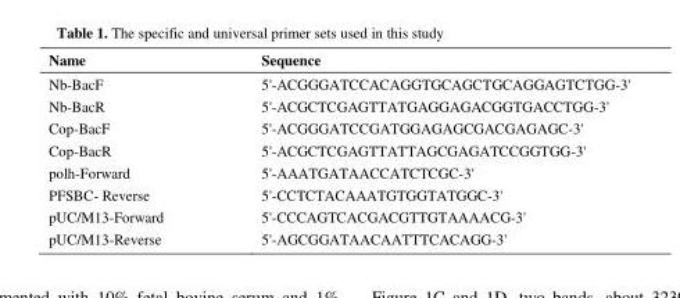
<table><thead><tr><td>Name</td><td>Sequence</td></tr></thead><tbody><tr><td>Nb-BacF</td><td>5&#x27;-ACGGGATCCACAGGTGCAGCTGCAGGAGTCTGG-3&#x27;</td></tr><tr><td>Nb-BacR</td><td>5&#x27;-ACGCTCGAGTTATGAGGAGACGGTGACCTGG-3&#x27;</td></tr><tr><td>Cop-BacF</td><td>5&#x27;-ACGGGATCCGATGGAGAGCGACGAGAGC-3&#x27;</td></tr><tr><td>Cop-BacR</td><td>5&#x27;-ACGCTCGAGTTATTAGCGAGATCCGGTGG-3&#x27;</td></tr><tr><td>polh-Forward</td><td>5&#x27;-AAATGATAACCATCTCGC-3&#x27;</td></tr><tr><td>PFSBC- Reverse</td><td>5&#x27;-CCTCTACAAATGTGGTATGGC-3&#x27;</td></tr><tr><td>pUC/M13-Forward</td><td>5&#x27;-CCCAGTCACGACGTTGTAAAACG-3&#x27;</td></tr><tr><td>pUC/M13-Reverse</td><td>5&#x27;-AGCGGATAACAATTTCACAGG-3&#x27;</td></tr></tbody></table>